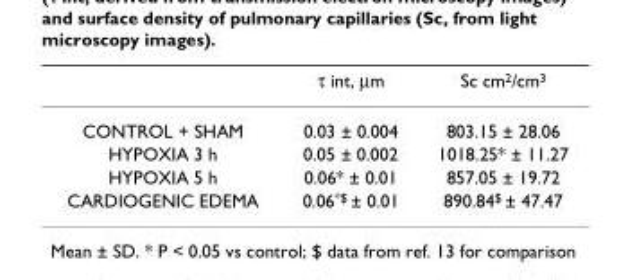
<table><thead><tr><td></td><td>τ int, µm</td><td>Sc cm<sup>2</sup>/cm<sup>3</sup></td></tr></thead><tbody><tr><td>CONTROL + SHAM</td><td>0.03 ± 0.004</td><td>803.15 ± 28.06</td></tr><tr><td>HYPOXIA 3 h</td><td>0.05 ± 0.002</td><td>1018.25* ± 11.27</td></tr><tr><td>HYPOXIA 5 h</td><td>0.06* ± 0.01</td><td>857.05 ± 19.72</td></tr><tr><td>CARDIOGENIC EDEMA</td><td>0.06<sup>*$</sup> ± 0.01</td><td>890.84<sup>$</sup> ± 47.47</td></tr></tbody></table>